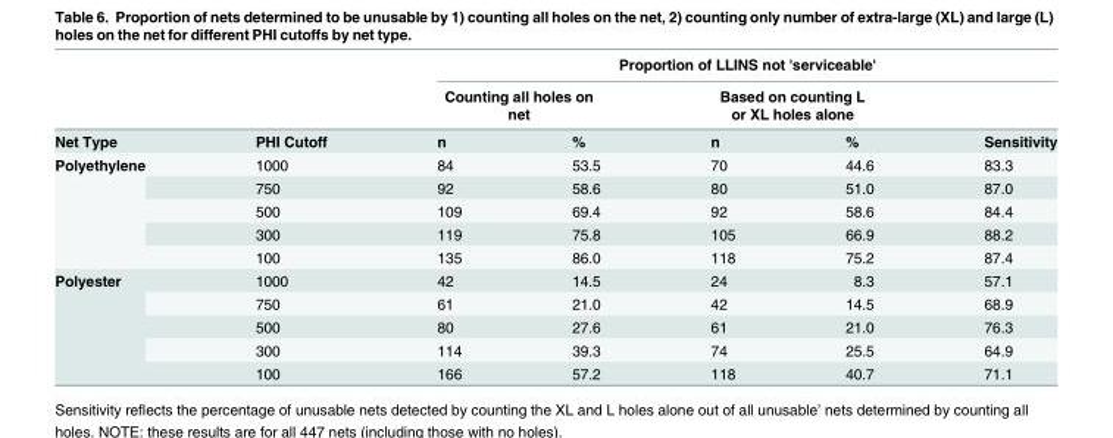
<table><thead><tr><td rowspan="3">Net Type</td><td rowspan="3">PHI Cutoff</td><td colspan="5">Proportion of LLINS not &#x27;serviceable&#x27;</td></tr><tr><td colspan="2">Counting all holes on net</td><td colspan="2">Based on counting L or XL holes alone</td><td rowspan="2">Sensitivity</td></tr><tr><td>n</td><td>%</td><td>n</td><td>%</td></tr></thead><tbody><tr><td rowspan="5">Polyethylene</td><td>1000</td><td>84</td><td>53.5</td><td>70</td><td>44.6</td><td>83.3</td></tr><tr><td>750</td><td>92</td><td>58.6</td><td>80</td><td>51.0</td><td>87.0</td></tr><tr><td>500</td><td>109</td><td>69.4</td><td>92</td><td>58.6</td><td>84.4</td></tr><tr><td>300</td><td>119</td><td>75.8</td><td>105</td><td>66.9</td><td>88.2</td></tr><tr><td>100</td><td>135</td><td>86.0</td><td>118</td><td>75.2</td><td>87.4</td></tr><tr><td rowspan="5">Polyester</td><td>1000</td><td>42</td><td>14.5</td><td>24</td><td>8.3</td><td>57.1</td></tr><tr><td>750</td><td>61</td><td>21.0</td><td>42</td><td>14.5</td><td>68.9</td></tr><tr><td>500</td><td>80</td><td>27.6</td><td>61</td><td>21.0</td><td>76.3</td></tr><tr><td>300</td><td>114</td><td>39.3</td><td>74</td><td>25.5</td><td>64.9</td></tr><tr><td>100</td><td>166</td><td>57.2</td><td>118</td><td>40.7</td><td>71.1</td></tr></tbody></table>